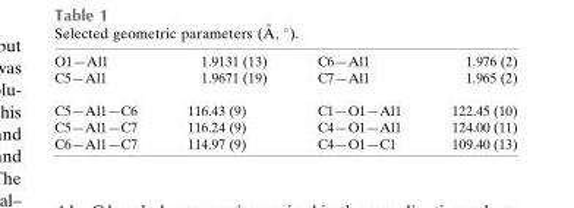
<table><tbody><tr><td>O1—Al1</td><td>1.9131 (13)</td><td>C6—Al1</td><td>1.976 (2)</td></tr><tr><td>C5—Al1</td><td>1.9671 (19)</td><td>C7—Al1</td><td>1.965 (2)</td></tr><tr><td>C5—Al1—C6</td><td>116.43 (9)</td><td>C1—O1—Al1</td><td>122.45 (10)</td></tr><tr><td>C5—Al1—C7</td><td>116.24 (9)</td><td>C4—O1—Al1</td><td>124.00 (11)</td></tr><tr><td>C6—Al1—C7</td><td>114.97 (9)</td><td>C4—O1—C1</td><td>109.40 (13)</td></tr></tbody></table>